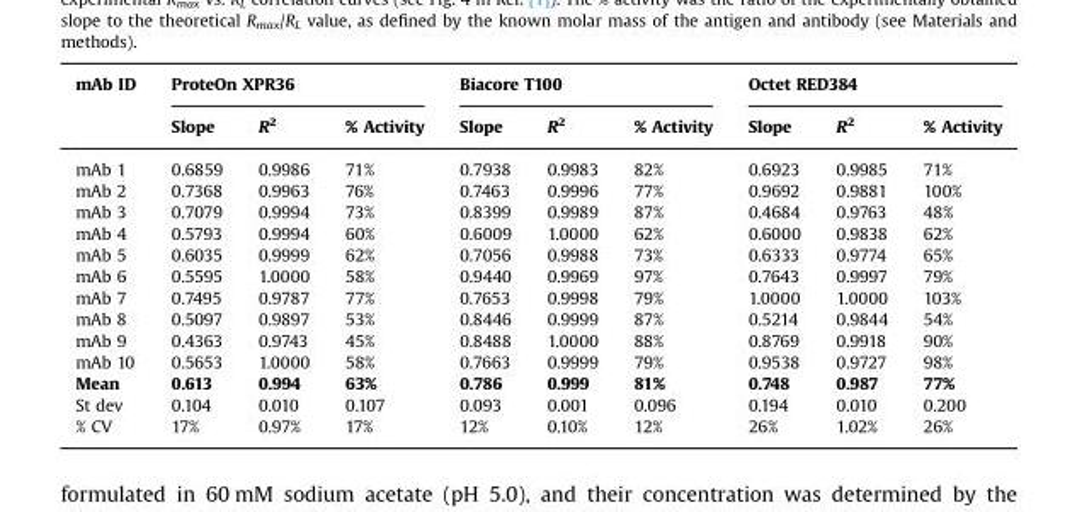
<table><thead><tr><td rowspan="2">mAb ID</td><td colspan="3">ProteOn XPR36</td><td colspan="3">Biacore T100</td><td colspan="3">Octet RED384</td></tr><tr><td>Slope</td><td>R<sup>2</sup></td><td>% Activity</td><td>Slope</td><td>R<sup>2</sup></td><td>% Activity</td><td>Slope</td><td>R<sup>2</sup></td><td>% Activity</td></tr></thead><tbody><tr><td>mAb 1</td><td>0.6859</td><td>0.9986</td><td>71%</td><td>0.7938</td><td>0.9983</td><td>82%</td><td>0.6923</td><td>0.9985</td><td>71%</td></tr><tr><td>mAb 2</td><td>0.7368</td><td>0.9963</td><td>76%</td><td>0.7463</td><td>0.9996</td><td>77%</td><td>0.9692</td><td>0.9881</td><td>100%</td></tr><tr><td>mAb 3</td><td>0.7079</td><td>0.9994</td><td>73%</td><td>0.8399</td><td>0.9989</td><td>87%</td><td>0.4684</td><td>0.9763</td><td>48%</td></tr><tr><td>mAb 4</td><td>0.5793</td><td>0.9994</td><td>60%</td><td>0.6009</td><td>1.0000</td><td>62%</td><td>0.6000</td><td>0.9838</td><td>62%</td></tr><tr><td>mAb 5</td><td>0.6035</td><td>0.9999</td><td>62%</td><td>0.7056</td><td>0.9988</td><td>73%</td><td>0.6333</td><td>0.9774</td><td>65%</td></tr><tr><td>mAb 6</td><td>0.5595</td><td>1.0000</td><td>58%</td><td>0.9440</td><td>0.9969</td><td>97%</td><td>0.7643</td><td>0.9997</td><td>79%</td></tr><tr><td>mAb 7</td><td>0.7495</td><td>0.9787</td><td>77%</td><td>0.7653</td><td>0.9998</td><td>79%</td><td>1.0000</td><td>1.0000</td><td>103%</td></tr><tr><td>mAb 8</td><td>0.5097</td><td>0.9897</td><td>53%</td><td>0.8446</td><td>0.9999</td><td>87%</td><td>0.5214</td><td>0.9844</td><td>54%</td></tr><tr><td>mAb 9</td><td>0.4363</td><td>0.9743</td><td>45%</td><td>0.8488</td><td>1.0000</td><td>88%</td><td>0.8769</td><td>0.9918</td><td>90%</td></tr><tr><td>mAb 10</td><td>0.5653</td><td>1.0000</td><td>58%</td><td>0.7663</td><td>0.9999</td><td>79%</td><td>0.9538</td><td>0.9727</td><td>98%</td></tr><tr><td>Mean</td><td>0.613</td><td>0.994</td><td>63%</td><td>0.786</td><td>0.999</td><td>81%</td><td>0.748</td><td>0.987</td><td>77%</td></tr><tr><td>St dev</td><td>0.104</td><td>0.010</td><td>0.107</td><td>0.093</td><td>0.001</td><td>0.096</td><td>0.194</td><td>0.010</td><td>0.200</td></tr><tr><td>% CV</td><td>17%</td><td>0.97%</td><td>17%</td><td>12%</td><td>0.10%</td><td>12%</td><td>26%</td><td>1.02%</td><td>26%</td></tr></tbody></table>